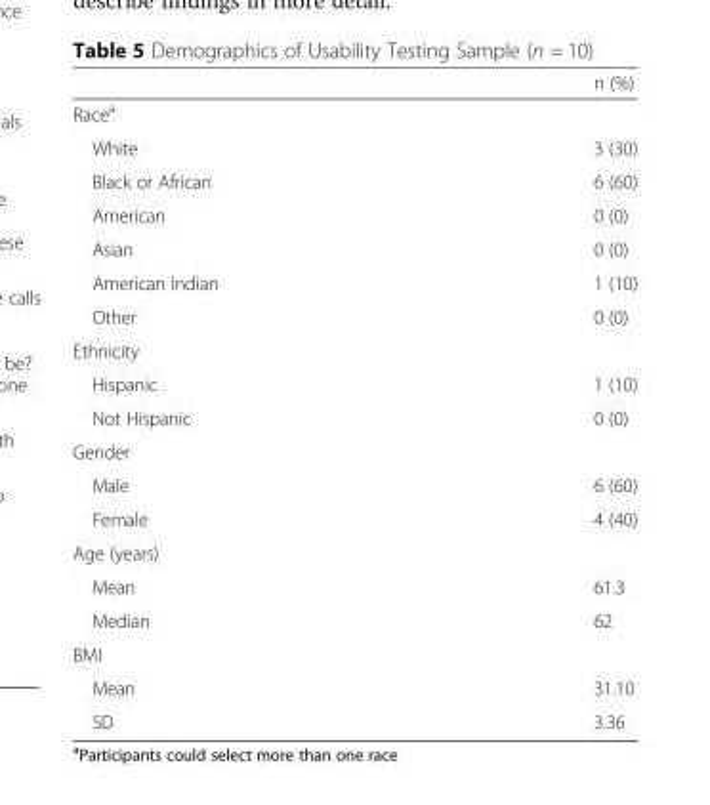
<table><thead><tr><td></td><td>n (%)</td></tr></thead><tbody><tr><td colspan="2">Race<sup>a</sup></td></tr><tr><td>White</td><td>3 (30)</td></tr><tr><td>Black or African</td><td>6 (60)</td></tr><tr><td>American</td><td>0 (0)</td></tr><tr><td>Asian</td><td>0 (0)</td></tr><tr><td>American Indian</td><td>1 (10)</td></tr><tr><td>Other</td><td>0 (0)</td></tr><tr><td colspan="2">Ethnicity</td></tr><tr><td>Hispanic</td><td>1 (10)</td></tr><tr><td>Not Hispanic</td><td>0 (0)</td></tr><tr><td colspan="2">Gender</td></tr><tr><td>Male</td><td>6 (60)</td></tr><tr><td>Female</td><td>4 (40)</td></tr><tr><td colspan="2">Age (years)</td></tr><tr><td>Mean</td><td>61.3</td></tr><tr><td>Median</td><td>62</td></tr><tr><td colspan="2">BMI</td></tr><tr><td>Mean</td><td>31.10</td></tr><tr><td>SD</td><td>3.36</td></tr></tbody></table>